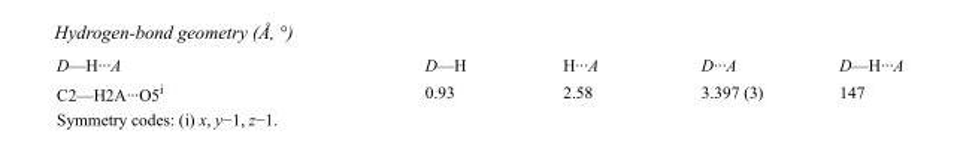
<table><tbody><tr><td>D—H···A</td><td>D—H</td><td>H···A</td><td>D···A</td><td>D—H···A</td></tr><tr><td>C2—H2A···O5<sup>i</sup></td><td>0.93</td><td>2.58</td><td>3.397 (3)</td><td>147</td></tr></tbody></table>